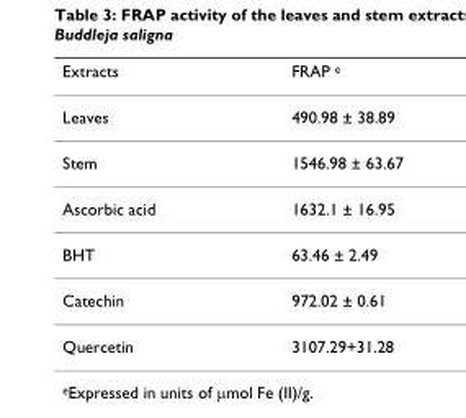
<table><thead><tr><td>Extracts</td><td>FRAP <sup>e</sup></td></tr></thead><tbody><tr><td>Leaves</td><td>490.98 ± 38.89</td></tr><tr><td>Stem</td><td>1546.98 ± 63.67</td></tr><tr><td>Ascorbic acid</td><td>1632.1 ± 16.95</td></tr><tr><td>BHT</td><td>63.46 ± 2.49</td></tr><tr><td>Catechin</td><td>972.02 ± 0.61</td></tr><tr><td>Quercetin</td><td>3107.29+31.28</td></tr></tbody></table>